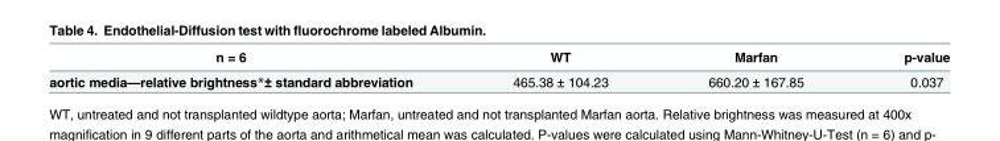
<table><thead><tr><td>n = 6</td><td>WT</td><td>Marfan</td><td>p-value</td></tr></thead><tbody><tr><td>aortic media—relative brightness*± standard abbreviation</td><td>465.38 ± 104.23</td><td>660.20 ± 167.85</td><td>0.037</td></tr></tbody></table>